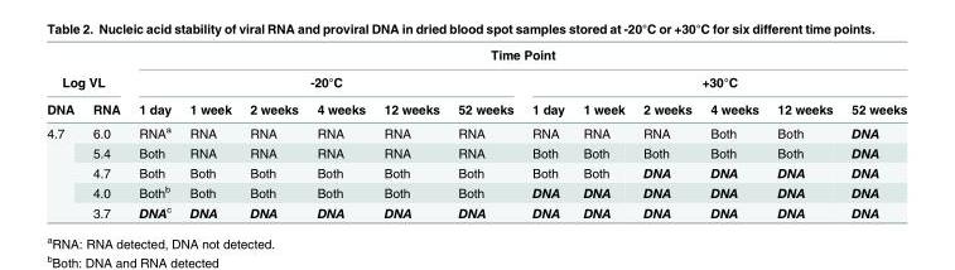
<table><thead><tr><td></td><td></td><td colspan="12">Time Point</td></tr><tr><td colspan="2">Log VL</td><td colspan="6">-20°C</td><td colspan="6">+30°C</td></tr><tr><td>DNA</td><td>RNA</td><td>1 day</td><td>1 week</td><td>2 weeks</td><td>4 weeks</td><td>12 weeks</td><td>52 weeks</td><td>1 day</td><td>1 week</td><td>2 weeks</td><td>4 weeks</td><td>12 weeks</td><td>52 weeks</td></tr></thead><tbody><tr><td rowspan="5">4.7</td><td>6.0</td><td>RNA<sup>a</sup></td><td>RNA</td><td>RNA</td><td>RNA</td><td>RNA</td><td>RNA</td><td>RNA</td><td>RNA</td><td>RNA</td><td>Both</td><td>Both</td><td>DNA</td></tr><tr><td>5.4</td><td>Both</td><td>RNA</td><td>RNA</td><td>RNA</td><td>RNA</td><td>RNA</td><td>Both</td><td>Both</td><td>Both</td><td>Both</td><td>Both</td><td>DNA</td></tr><tr><td>4.7</td><td>Both</td><td>Both</td><td>Both</td><td>Both</td><td>Both</td><td>Both</td><td>Both</td><td>Both</td><td>DNA</td><td>DNA</td><td>DNA</td><td>DNA</td></tr><tr><td>4.0</td><td>Both<sup>b</sup></td><td>Both</td><td>Both</td><td>Both</td><td>Both</td><td>Both</td><td>DNA</td><td>DNA</td><td>DNA</td><td>DNA</td><td>DNA</td><td>DNA</td></tr><tr><td>3.7</td><td>DNA<sup>c</sup></td><td>DNA</td><td>DNA</td><td>DNA</td><td>DNA</td><td>DNA</td><td>DNA</td><td>DNA</td><td>DNA</td><td>DNA</td><td>DNA</td><td>DNA</td></tr></tbody></table>